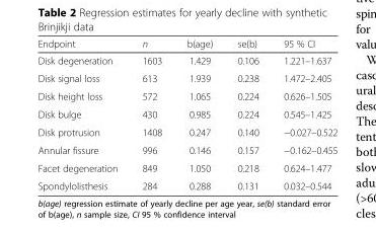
<table><thead><tr><td>Endpoint</td><td>n</td><td>b(age)</td><td>se(b)</td><td>95 % CI</td></tr></thead><tbody><tr><td>Disk degeneration</td><td>1603</td><td>1.429</td><td>0.106</td><td>1.221–1.637</td></tr><tr><td>Disk signal loss</td><td>613</td><td>1.939</td><td>0.238</td><td>1.472–2.405</td></tr><tr><td>Disk height loss</td><td>572</td><td>1.065</td><td>0.224</td><td>0.626–1.505</td></tr><tr><td>Disk bulge</td><td>430</td><td>0.985</td><td>0.224</td><td>0.545–1.425</td></tr><tr><td>Disk protrusion</td><td>1408</td><td>0.247</td><td>0.140</td><td>−0.027–0.522</td></tr><tr><td>Annular fissure</td><td>996</td><td>0.146</td><td>0.157</td><td>−0.162–0.455</td></tr><tr><td>Facet degeneration</td><td>849</td><td>1.050</td><td>0.218</td><td>0.624–1.477</td></tr><tr><td>Spondylolisthesis</td><td>284</td><td>0.288</td><td>0.131</td><td>0.032–0.544</td></tr></tbody></table>